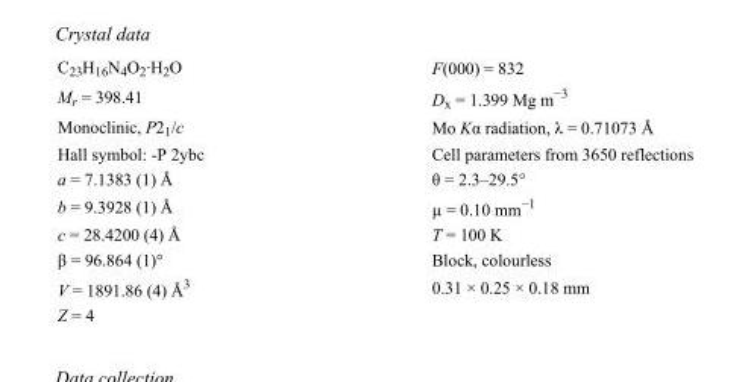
<table><tbody><tr><td>C<sub>23</sub>H<sub>16</sub>N<sub>4</sub>O<sub>2</sub>·H<sub>2</sub>O</td><td>F(000) = 832</td></tr><tr><td>M<sub>r</sub> = 398.41</td><td>D<sub>x</sub> = 1.399 Mg m<sup>−3</sup></td></tr><tr><td>Monoclinic, P2<sub>1</sub>/c</td><td>Mo Kα radiation, λ = 0.71073 Å</td></tr><tr><td>Hall symbol: -P 2ybc</td><td>Cell parameters from 3650 reflections</td></tr><tr><td>a = 7.1383 (1) Å</td><td>θ = 2.3–29.5°</td></tr><tr><td>b = 9.3928 (1) Å</td><td>µ = 0.10 mm<sup>−1</sup></td></tr><tr><td>c = 28.4200 (4) Å</td><td>T = 100 K</td></tr><tr><td>β = 96.864 (1)°</td><td>Block, colourless</td></tr><tr><td>V = 1891.86 (4) Å<sup>3</sup></td><td>0.31 × 0.25 × 0.18 mm</td></tr><tr><td>Z = 4</td><td></td></tr></tbody></table>